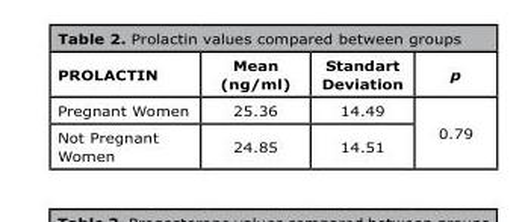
<table><thead><tr><td>PROLACTIN</td><td>Mean (ng/ml)</td><td>Standart Deviation</td><td>p</td></tr></thead><tbody><tr><td>Pregnant Women</td><td>25.36</td><td>14.49</td><td rowspan="2">0.79</td></tr><tr><td>Not Pregnant Women</td><td>24.85</td><td>14.51</td></tr></tbody></table>